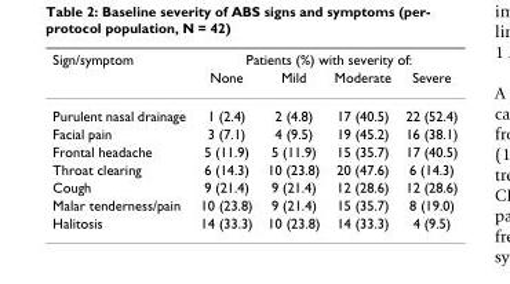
<table><thead><tr><td rowspan="2">Sign/symptom</td><td colspan="4">Patients (%) with severity of:</td></tr><tr><td>None</td><td>Mild</td><td>Moderate</td><td>Severe</td></tr></thead><tbody><tr><td>Purulent nasal drainage</td><td>1 (2.4)</td><td>2 (4.8)</td><td>17 (40.5)</td><td>22 (52.4)</td></tr><tr><td>Facial pain</td><td>3 (7.1)</td><td>4 (9.5)</td><td>19 (45.2)</td><td>16 (38.1)</td></tr><tr><td>Frontal headache</td><td>5 (11.9)</td><td>5 (11.9)</td><td>15 (35.7)</td><td>17 (40.5)</td></tr><tr><td>Throat clearing</td><td>6 (14.3)</td><td>10 (23.8)</td><td>20 (47.6)</td><td>6 (14.3)</td></tr><tr><td>Cough</td><td>9 (21.4)</td><td>9 (21.4)</td><td>12 (28.6)</td><td>12 (28.6)</td></tr><tr><td>Malar tenderness/pain</td><td>10 (23.8)</td><td>9 (21.4)</td><td>15 (35.7)</td><td>8 (19.0)</td></tr><tr><td>Halitosis</td><td>14 (33.3)</td><td>10 (23.8)</td><td>14 (33.3)</td><td>4 (9.5)</td></tr></tbody></table>